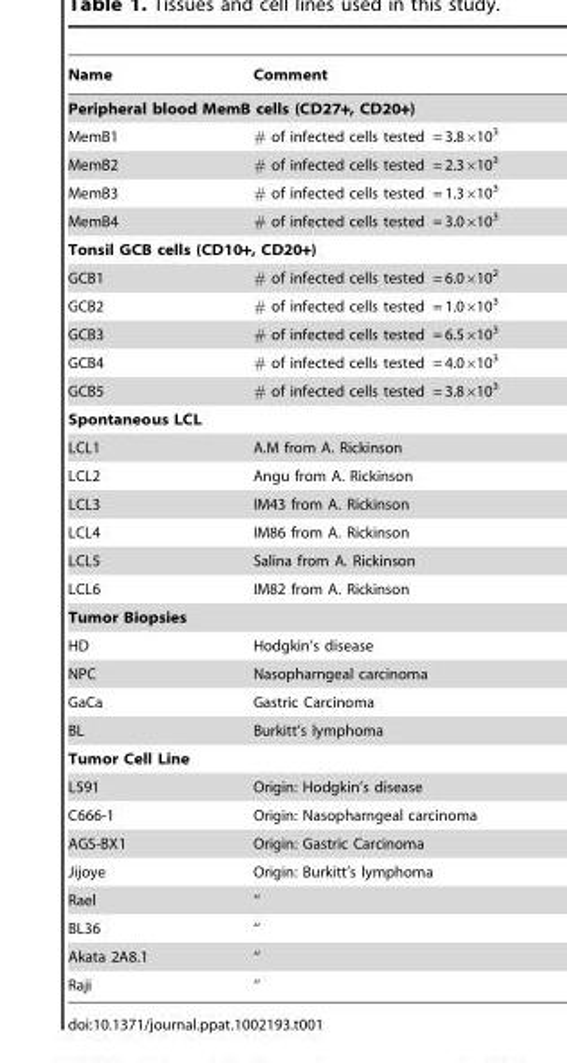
<table><thead><tr><td>Name</td><td>Comment</td></tr></thead><tbody><tr><td colspan="2">Peripheral blood MemB cells (CD27+, CD20+)</td></tr><tr><td>MemB1</td><td># of infected cells tested = 3.8×10<sup>3</sup></td></tr><tr><td>MemB2</td><td># of infected cells tested = 2.3×10<sup>3</sup></td></tr><tr><td>MemB3</td><td># of infected cells tested = 1.3×10<sup>3</sup></td></tr><tr><td>MemB4</td><td># of infected cells tested = 3.0×10<sup>3</sup></td></tr><tr><td colspan="2">Tonsil GCB cells (CD10+, CD20+)</td></tr><tr><td>GCB1</td><td># of infected cells tested = 6.0×10<sup>2</sup></td></tr><tr><td>GCB2</td><td># of infected cells tested = 1.0×10<sup>3</sup></td></tr><tr><td>GCB3</td><td># of infected cells tested = 6.5×10<sup>3</sup></td></tr><tr><td>GCB4</td><td># of infected cells tested = 4.0×10<sup>3</sup></td></tr><tr><td>GCB5</td><td># of infected cells tested = 3.8×10<sup>3</sup></td></tr><tr><td colspan="2">Spontaneous LCL</td></tr><tr><td>LCL1</td><td>A.M from A. Rickinson</td></tr><tr><td>LCL2</td><td>Angu from A. Rickinson</td></tr><tr><td>LCL3</td><td>IM43 from A. Rickinson</td></tr><tr><td>LCL4</td><td>IM86 from A. Rickinson</td></tr><tr><td>LCL5</td><td>Salina from A. Rickinson</td></tr><tr><td>LCL6</td><td>IM82 from A. Rickinson</td></tr><tr><td colspan="2">Tumor Biopsies</td></tr><tr><td>HD</td><td>Hodgkin’s disease</td></tr><tr><td>NPC</td><td>Nasopharngeal carcinoma</td></tr><tr><td>GaCa</td><td>Gastric Carcinoma</td></tr><tr><td>BL</td><td>Burkitt’s lymphoma</td></tr><tr><td colspan="2">Tumor Cell Line</td></tr><tr><td>L591</td><td>Origin: Hodgkin’s disease</td></tr><tr><td>C666-1</td><td>Origin: Nasopharngeal carcinoma</td></tr><tr><td>AGS-BX1</td><td>Origin: Gastric Carcinoma</td></tr><tr><td>Jijoye</td><td>Origin: Burkitt’s lymphoma</td></tr><tr><td>Rael</td><td>‘‘</td></tr><tr><td>BL36</td><td>‘‘</td></tr><tr><td>Akata 2A8.1</td><td>‘‘</td></tr><tr><td>Raji</td><td>‘‘</td></tr></tbody></table>